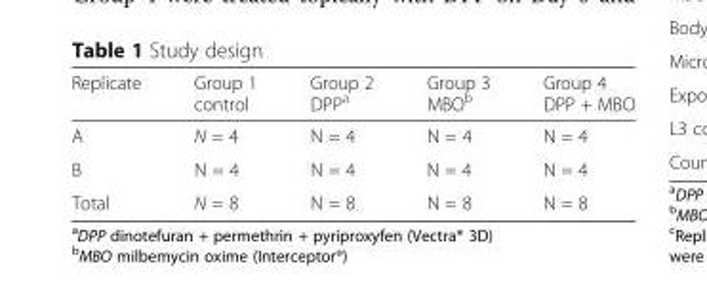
<table><thead><tr><td>Replicate</td><td>Group 1 control</td><td>Group 2 DPP<sup>a</sup></td><td>Group 3 MBO<sup>b</sup></td><td>Group 4 DPP + MBO</td></tr></thead><tbody><tr><td>A</td><td>N = 4</td><td>N = 4</td><td>N = 4</td><td>N = 4</td></tr><tr><td>B</td><td>N = 4</td><td>N = 4</td><td>N = 4</td><td>N = 4</td></tr><tr><td>Total</td><td>N = 8</td><td>N = 8</td><td>N = 8</td><td>N = 8</td></tr></tbody></table>